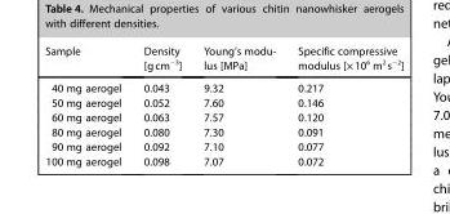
<table><thead><tr><td>Sample</td><td>Density [gcm<sup>−3</sup>]</td><td>Young’s modu- lus [MPa]</td><td>Specific compressive modulus [×10<sup>6</sup> m<sup>2</sup>s<sup>−2</sup>]</td></tr></thead><tbody><tr><td>40 mg aerogel</td><td>0.043</td><td>9.32</td><td>0.217</td></tr><tr><td>50 mg aerogel</td><td>0.052</td><td>7.60</td><td>0.146</td></tr><tr><td>60 mg aerogel</td><td>0.063</td><td>7.57</td><td>0.120</td></tr><tr><td>80 mg aerogel</td><td>0.080</td><td>7.30</td><td>0.091</td></tr><tr><td>90 mg aerogel</td><td>0.092</td><td>7.10</td><td>0.077</td></tr><tr><td>100 mg aerogel</td><td>0.098</td><td>7.07</td><td>0.072</td></tr></tbody></table>